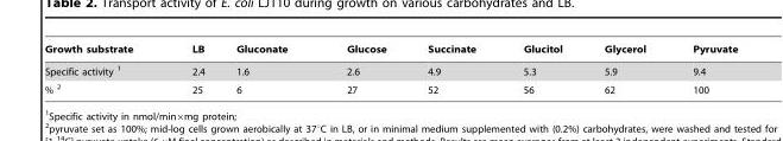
<table><thead><tr><td>Growth substrate</td><td>LB</td><td>Gluconate</td><td>Glucose</td><td>Succinate</td><td>Glucitol</td><td>Glycerol</td><td>Pyruvate</td></tr></thead><tbody><tr><td>Specific activity 1</td><td>2.4</td><td>1.6</td><td>2.6</td><td>4.9</td><td>5.3</td><td>5.9</td><td>9.4</td></tr><tr><td>% 2</td><td>25</td><td>6</td><td>27</td><td>52</td><td>56</td><td>62</td><td>100</td></tr></tbody></table>